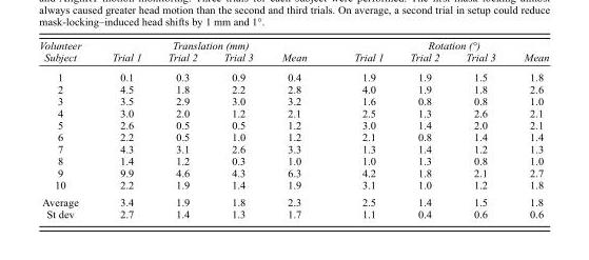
<table><thead><tr><td rowspan="2">Volunteer Subject</td><td rowspan="2">Trial 1</td><td colspan="2">Translation (mm)</td><td rowspan="2">Mean</td><td rowspan="2">Trial 1</td><td colspan="2">Rotation (°)</td><td rowspan="2">Mean</td></tr><tr><td>Trial 2</td><td>Trial 3</td><td>Trial 2</td><td>Trial 3</td></tr></thead><tbody><tr><td>1</td><td>0.1</td><td>0.3</td><td>0.9</td><td>0.4</td><td>1.9</td><td>1.9</td><td>1.5</td><td>1.8</td></tr><tr><td>2</td><td>4.5</td><td>1.8</td><td>2.2</td><td>2.8</td><td>4.0</td><td>1.9</td><td>1.8</td><td>2.6</td></tr><tr><td>3</td><td>3.5</td><td>2.9</td><td>3.0</td><td>3.2</td><td>1.6</td><td>0.8</td><td>0.8</td><td>1.0</td></tr><tr><td>4</td><td>3.0</td><td>2.0</td><td>1.2</td><td>2.1</td><td>2.5</td><td>1.3</td><td>2.6</td><td>2.1</td></tr><tr><td>5</td><td>2.6</td><td>0.5</td><td>0.5</td><td>1.2</td><td>3.0</td><td>1.4</td><td>2.0</td><td>2.1</td></tr><tr><td>6</td><td>2.2</td><td>0.5</td><td>1.0</td><td>1.2</td><td>2.1</td><td>0.8</td><td>1.4</td><td>1.4</td></tr><tr><td>7</td><td>4.3</td><td>3.1</td><td>2.6</td><td>3.3</td><td>1.3</td><td>1.4</td><td>1.2</td><td>1.3</td></tr><tr><td>8</td><td>1.4</td><td>1.2</td><td>0.3</td><td>1.0</td><td>1.0</td><td>1.3</td><td>0.8</td><td>1.0</td></tr><tr><td>9</td><td>9.9</td><td>4.6</td><td>4.3</td><td>6.3</td><td>4.2</td><td>1.8</td><td>2.1</td><td>2.7</td></tr><tr><td>10</td><td>2.2</td><td>1.9</td><td>1.4</td><td>1.9</td><td>3.1</td><td>1.0</td><td>1.2</td><td>1.8</td></tr><tr><td>Average</td><td>3.4</td><td>1.9</td><td>1.8</td><td>2.3</td><td>2.5</td><td>1.4</td><td>1.5</td><td>1.8</td></tr><tr><td>St dev</td><td>2.7</td><td>1.4</td><td>1.3</td><td>1.7</td><td>1.1</td><td>0.4</td><td>0.6</td><td>0.6</td></tr></tbody></table>